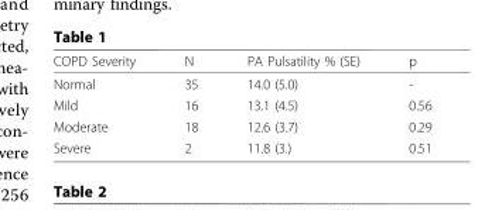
<table><thead><tr><td>COPD Severity</td><td>N</td><td>PA Pulsatility % (SE)</td><td>p</td></tr></thead><tbody><tr><td>Normal</td><td>35</td><td>14.0 (5.0)</td><td>-</td></tr><tr><td>Mild</td><td>16</td><td>13.1 (4.5)</td><td>0.56</td></tr><tr><td>Moderate</td><td>18</td><td>12.6 (3.7)</td><td>0.29</td></tr><tr><td>Severe</td><td>2</td><td>11.8 (3.)</td><td>0.51</td></tr></tbody></table>